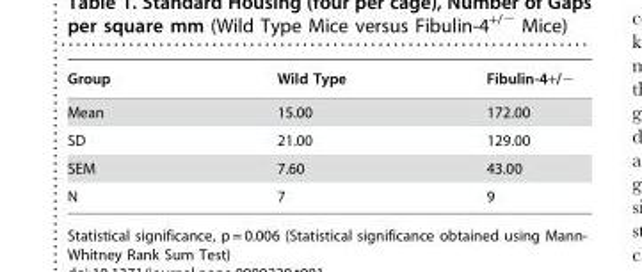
<table><thead><tr><td>Group</td><td>Wild Type</td><td>Fibulin-4+/−</td></tr></thead><tbody><tr><td>Mean</td><td>15.00</td><td>172.00</td></tr><tr><td>SD</td><td>21.00</td><td>129.00</td></tr><tr><td>SEM</td><td>7.60</td><td>43.00</td></tr><tr><td>N</td><td>7</td><td>9</td></tr></tbody></table>